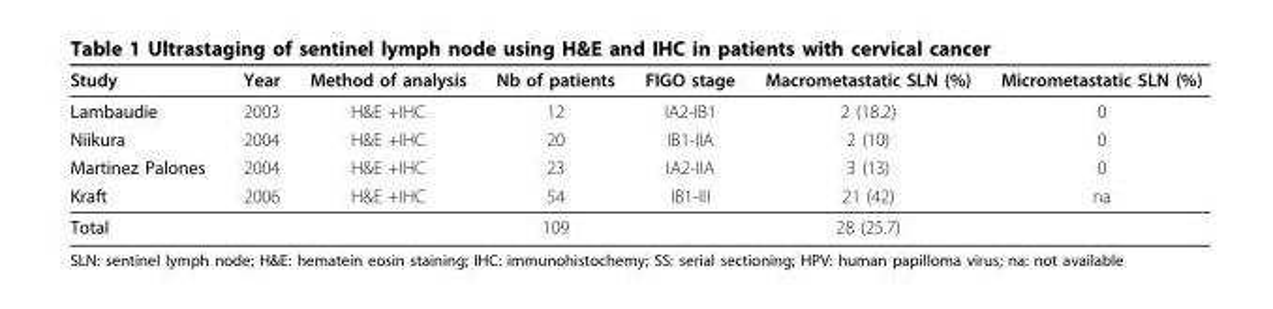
<table><thead><tr><td>Study</td><td>Year</td><td>Method of analysis</td><td>Nb of patients</td><td>FIGO stage</td><td>Macrometastatic SLN (%)</td><td>Micrometastatic SLN (%)</td></tr></thead><tbody><tr><td>Lambaudie</td><td>2003</td><td>H&amp;E +IHC</td><td>12</td><td>IA2-IB1</td><td>2 (18.2)</td><td>0</td></tr><tr><td>Niikura</td><td>2004</td><td>H&amp;E +IHC</td><td>20</td><td>IB1-IIA</td><td>2 (10)</td><td>0</td></tr><tr><td>Martinez Palones</td><td>2004</td><td>H&amp;E +IHC</td><td>23</td><td>IA2-IIA</td><td>3 (13)</td><td>0</td></tr><tr><td>Kraft</td><td>2006</td><td>H&amp;E +IHC</td><td>54</td><td>IB1-III</td><td>21 (42)</td><td>na</td></tr><tr><td>Total</td><td></td><td></td><td>109</td><td></td><td>28 (25.7)</td><td></td></tr></tbody></table>